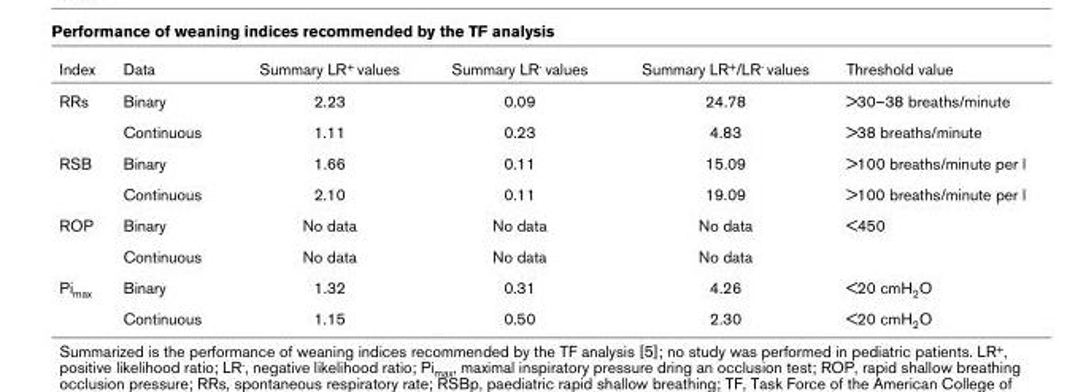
<table><thead><tr><td>Index</td><td>Data</td><td>Summary LR+ values</td><td>Summary LR- values</td><td>Summary LR+/LR- values</td><td>Threshold value</td></tr></thead><tbody><tr><td rowspan="2">RRs</td><td>Binary</td><td>2.23</td><td>0.09</td><td>24.78</td><td>&gt;30–38 breaths/minute</td></tr><tr><td>Continuous</td><td>1.11</td><td>0.23</td><td>4.83</td><td>&gt;38 breaths/minute</td></tr><tr><td rowspan="2">RSB</td><td>Binary</td><td>1.66</td><td>0.11</td><td>15.09</td><td>&gt;100 breaths/minute per l</td></tr><tr><td>Continuous</td><td>2.10</td><td>0.11</td><td>19.09</td><td>&gt;100 breaths/minute per l</td></tr><tr><td rowspan="2">ROP</td><td>Binary</td><td>No data</td><td>No data</td><td>No data</td><td>&lt;450</td></tr><tr><td>Continuous</td><td>No data</td><td>No data</td><td>No data</td><td></td></tr><tr><td rowspan="2">Pimax</td><td>Binary</td><td>1.32</td><td>0.31</td><td>4.26</td><td>&lt;20 cmH2O</td></tr><tr><td>Continuous</td><td>1.15</td><td>0.50</td><td>2.30</td><td>&lt;20 cmH2O</td></tr></tbody></table>